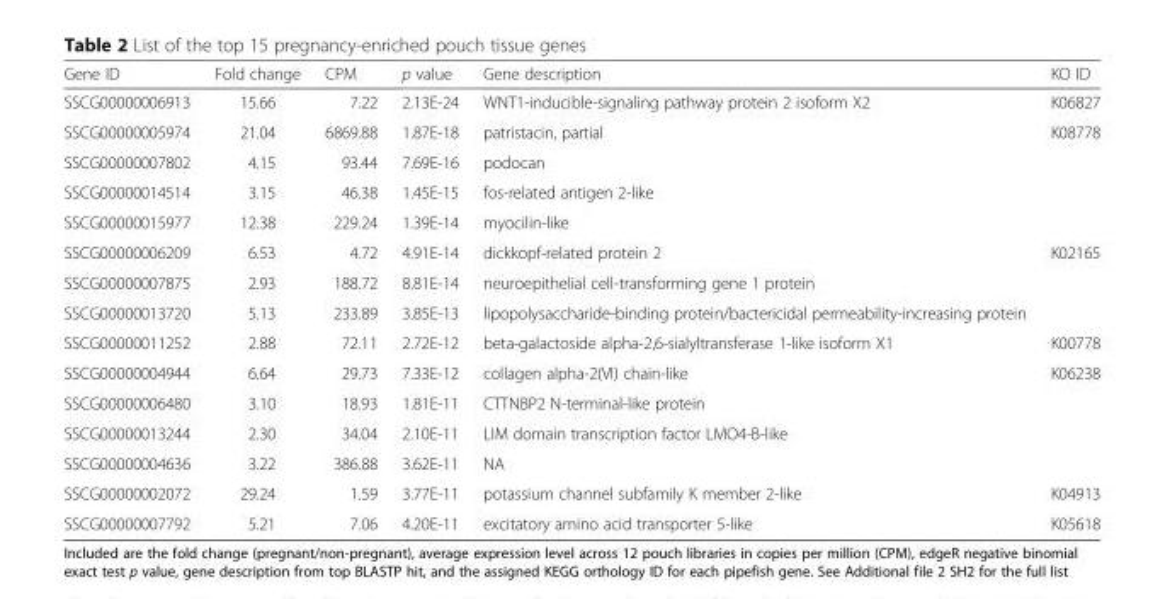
<table><thead><tr><td>Gene ID</td><td>Fold change</td><td>CPM</td><td>p value</td><td>Gene description</td><td>KO ID</td></tr></thead><tbody><tr><td>SSCG00000006913</td><td>15.66</td><td>7.22</td><td>2.13E-24</td><td>WNT1-inducible-signaling pathway protein 2 isoform X2</td><td>K06827</td></tr><tr><td>SSCG00000005974</td><td>21.04</td><td>6869.88</td><td>1.87E-18</td><td>patristacin, partial</td><td>K08778</td></tr><tr><td>SSCG00000007802</td><td>4.15</td><td>93.44</td><td>7.69E-16</td><td>podocan</td><td></td></tr><tr><td>SSCG00000014514</td><td>3.15</td><td>46.38</td><td>1.45E-15</td><td>fos-related antigen 2-like</td><td></td></tr><tr><td>SSCG00000015977</td><td>12.38</td><td>229.24</td><td>1.39E-14</td><td>myocilin-like</td><td></td></tr><tr><td>SSCG00000006209</td><td>6.53</td><td>4.72</td><td>4.91E-14</td><td>dickkopf-related protein 2</td><td>K02165</td></tr><tr><td>SSCG00000007875</td><td>2.93</td><td>188.72</td><td>8.81E-14</td><td>neuroepithelial cell-transforming gene 1 protein</td><td></td></tr><tr><td>SSCG00000013720</td><td>5.13</td><td>233.89</td><td>3.85E-13</td><td>lipopolysaccharide-binding protein/bactericidal permeability-increasing protein</td><td></td></tr><tr><td>SSCG00000011252</td><td>2.88</td><td>72.11</td><td>2.72E-12</td><td>beta-galactoside alpha-2,6-sialyltransferase 1-like isoform X1</td><td>K00778</td></tr><tr><td>SSCG00000004944</td><td>6.64</td><td>29.73</td><td>7.33E-12</td><td>collagen alpha-2(VI) chain-like</td><td>K06238</td></tr><tr><td>SSCG00000006480</td><td>3.10</td><td>18.93</td><td>1.81E-11</td><td>CTTNBP2 N-terminal-like protein</td><td></td></tr><tr><td>SSCG00000013244</td><td>2.30</td><td>34.04</td><td>2.10E-11</td><td>LIM domain transcription factor LMO4-B-like</td><td></td></tr><tr><td>SSCG00000004636</td><td>3.22</td><td>386.88</td><td>3.62E-11</td><td>NA</td><td></td></tr><tr><td>SSCG00000002072</td><td>29.24</td><td>1.59</td><td>3.77E-11</td><td>potassium channel subfamily K member 2-like</td><td>K04913</td></tr><tr><td>SSCG00000007792</td><td>5.21</td><td>7.06</td><td>4.20E-11</td><td>excitatory amino acid transporter 5-like</td><td>K05618</td></tr></tbody></table>